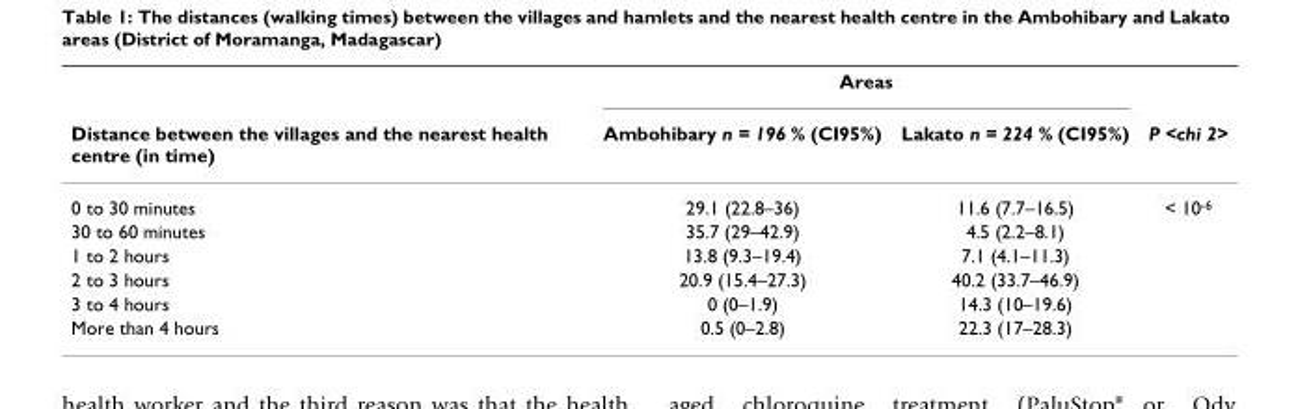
<table><thead><tr><td rowspan="2">Distance between the villages and the nearest health centre (in time)</td><td colspan="2">Areas</td><td rowspan="2">P &lt;chi 2&gt;</td></tr><tr><td>Ambohibary n = 196 % (CI95%)</td><td>Lakato n = 224 % (CI95%)</td></tr></thead><tbody><tr><td>0 to 30 minutes</td><td>29.1 (22.8–36)</td><td>11.6 (7.7–16.5)</td><td>&lt; 10<sup>-6</sup></td></tr><tr><td>30 to 60 minutes</td><td>35.7 (29–42.9)</td><td>4.5 (2.2–8.1)</td><td></td></tr><tr><td>1 to 2 hours</td><td>13.8 (9.3–19.4)</td><td>7.1 (4.1–11.3)</td><td></td></tr><tr><td>2 to 3 hours</td><td>20.9 (15.4–27.3)</td><td>40.2 (33.7–46.9)</td><td></td></tr><tr><td>3 to 4 hours</td><td>0 (0–1.9)</td><td>14.3 (10–19.6)</td><td></td></tr><tr><td>More than 4 hours</td><td>0.5 (0–2.8)</td><td>22.3 (17–28.3)</td><td></td></tr></tbody></table>